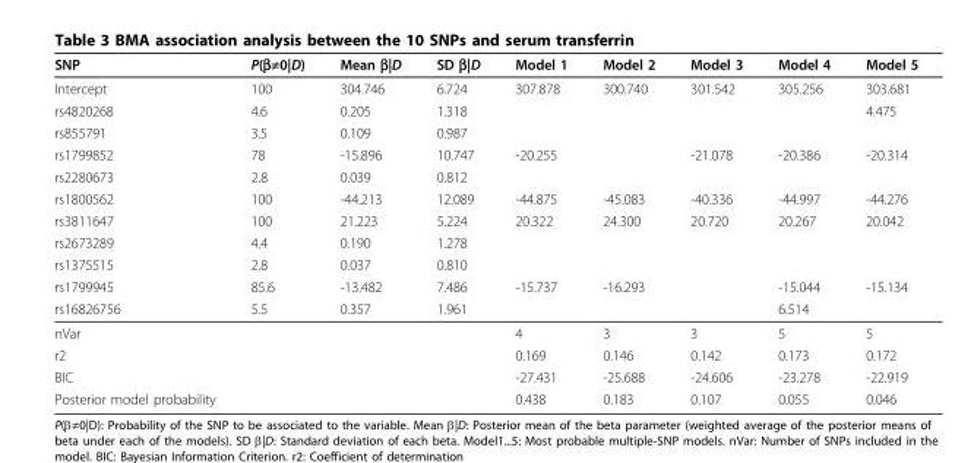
<table><thead><tr><td>SNP</td><td>P(β≠0|D)</td><td>Mean β|D</td><td>SD β|D</td><td>Model 1</td><td>Model 2</td><td>Model 3</td><td>Model 4</td><td>Model 5</td></tr></thead><tbody><tr><td>Intercept</td><td>100</td><td>304.746</td><td>6.724</td><td>307.878</td><td>300.740</td><td>301.542</td><td>305.256</td><td>303.681</td></tr><tr><td>rs4820268</td><td>4.6</td><td>0.205</td><td>1.318</td><td></td><td></td><td></td><td></td><td>4.475</td></tr><tr><td>rs855791</td><td>3.5</td><td>0.109</td><td>0.987</td><td></td><td></td><td></td><td></td><td></td></tr><tr><td>rs1799852</td><td>78</td><td>-15.896</td><td>10.747</td><td>-20.255</td><td></td><td>-21.078</td><td>-20.386</td><td>-20.314</td></tr><tr><td>rs2280673</td><td>2.8</td><td>0.039</td><td>0.812</td><td></td><td></td><td></td><td></td><td></td></tr><tr><td>rs1800562</td><td>100</td><td>-44.213</td><td>12.089</td><td>-44.875</td><td>-45.083</td><td>-40.336</td><td>-44.997</td><td>-44.276</td></tr><tr><td>rs3811647</td><td>100</td><td>21.223</td><td>5.224</td><td>20.322</td><td>24.300</td><td>20.720</td><td>20.267</td><td>20.042</td></tr><tr><td>rs2673289</td><td>4.4</td><td>0.190</td><td>1.278</td><td></td><td></td><td></td><td></td><td></td></tr><tr><td>rs1375515</td><td>2.8</td><td>0.037</td><td>0.810</td><td></td><td></td><td></td><td></td><td></td></tr><tr><td>rs1799945</td><td>85.6</td><td>-13.482</td><td>7.486</td><td>-15.737</td><td>-16.293</td><td></td><td>-15.044</td><td>-15.134</td></tr><tr><td>rs16826756</td><td>5.5</td><td>0.357</td><td>1.961</td><td></td><td></td><td></td><td>6.514</td><td></td></tr><tr><td>nVar</td><td></td><td></td><td></td><td>4</td><td>3</td><td>3</td><td>5</td><td>5</td></tr><tr><td>r2</td><td></td><td></td><td></td><td>0.169</td><td>0.146</td><td>0.142</td><td>0.173</td><td>0.172</td></tr><tr><td>BIC</td><td></td><td></td><td></td><td>-27.431</td><td>-25.688</td><td>-24.606</td><td>-23.278</td><td>-22.919</td></tr><tr><td>Posterior model probability</td><td></td><td></td><td></td><td>0.438</td><td>0.183</td><td>0.107</td><td>0.055</td><td>0.046</td></tr></tbody></table>